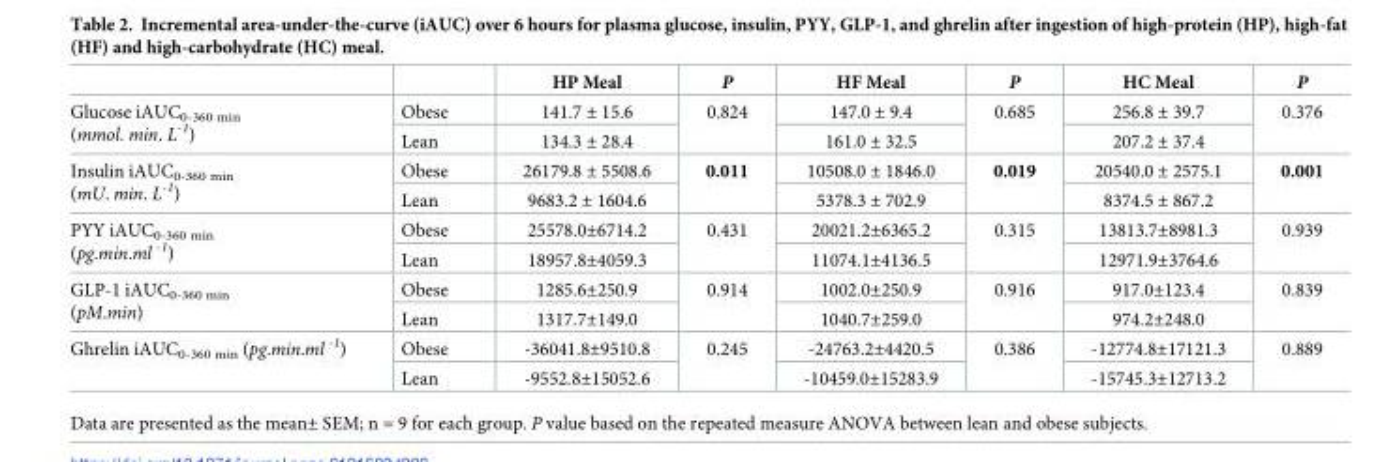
<table><thead><tr><td></td><td></td><td>HP Meal</td><td>P</td><td>HF Meal</td><td>P</td><td>HC Meal</td><td>P</td></tr></thead><tbody><tr><td rowspan="2">Glucose iAUC<sub>0-360 min</sub> (mmol. min. L<sup>-1</sup>)</td><td>Obese</td><td>141.7 ± 15.6</td><td rowspan="2">0.824</td><td>147.0 ± 9.4</td><td rowspan="2">0.685</td><td>256.8 ± 39.7</td><td rowspan="2">0.376</td></tr><tr><td>Lean</td><td>134.3 ± 28.4</td><td>161.0 ± 32.5</td><td>207.2 ± 37.4</td></tr><tr><td rowspan="2">Insulin iAUC<sub>0-360 min</sub> (mU. min. L<sup>-1</sup>)</td><td>Obese</td><td>26179.8 ± 5508.6</td><td rowspan="2">0.011</td><td>10508.0 ± 1846.0</td><td rowspan="2">0.019</td><td>20540.0 ± 2575.1</td><td rowspan="2">0.001</td></tr><tr><td>Lean</td><td>9683.2 ± 1604.6</td><td>5378.3 ± 702.9</td><td>8374.5 ± 867.2</td></tr><tr><td rowspan="2">PYY iAUC<sub>0-360 min</sub> (pg.min.ml <sup>-1</sup>)</td><td>Obese</td><td>25578.0±6714.2</td><td rowspan="2">0.431</td><td>20021.2±6365.2</td><td rowspan="2">0.315</td><td>13813.7±8981.3</td><td rowspan="2">0.939</td></tr><tr><td>Lean</td><td>18957.8±4059.3</td><td>11074.1±4136.5</td><td>12971.9±3764.6</td></tr><tr><td rowspan="2">GLP-1 iAUC<sub>0-360 min</sub> (pM.min)</td><td>Obese</td><td>1285.6±250.9</td><td rowspan="2">0.914</td><td>1002.0±250.9</td><td rowspan="2">0.916</td><td>917.0±123.4</td><td rowspan="2">0.839</td></tr><tr><td>Lean</td><td>1317.7±149.0</td><td>1040.7±259.0</td><td>974.2±248.0</td></tr><tr><td rowspan="2">Ghrelin iAUC<sub>0-360 min</sub> (pg.min.ml <sup>-1</sup>)</td><td>Obese</td><td>-36041.8±9510.8</td><td rowspan="2">0.245</td><td>-24763.2±4420.5</td><td rowspan="2">0.386</td><td>-12774.8±17121.3</td><td rowspan="2">0.889</td></tr><tr><td>Lean</td><td>-9552.8±15052.6</td><td>-10459.0±15283.9</td><td>-15745.3±12713.2</td></tr></tbody></table>